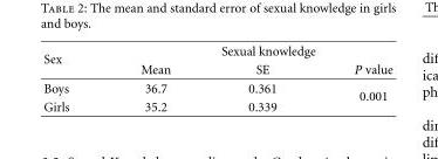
<table><thead><tr><td rowspan="2">Sex</td><td colspan="3">Sexual knowledge</td></tr><tr><td>Mean</td><td>SE</td><td>P value</td></tr></thead><tbody><tr><td>Boys</td><td>36.7</td><td>0.361</td><td rowspan="2">0.001</td></tr><tr><td>Girls</td><td>35.2</td><td>0.339</td></tr></tbody></table>